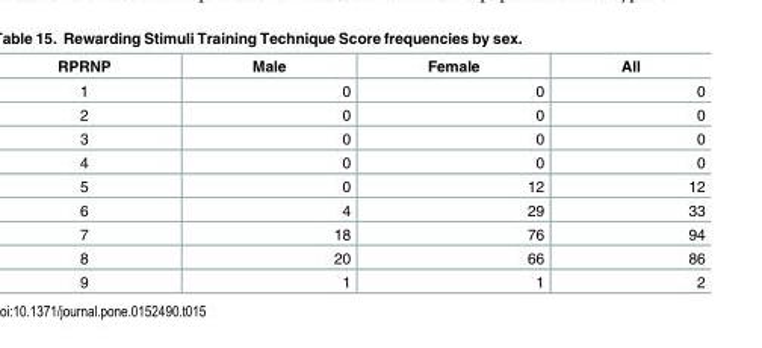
<table><thead><tr><td>RPRNP</td><td>Male</td><td>Female</td><td>All</td></tr></thead><tbody><tr><td>1</td><td>0</td><td>0</td><td>0</td></tr><tr><td>2</td><td>0</td><td>0</td><td>0</td></tr><tr><td>3</td><td>0</td><td>0</td><td>0</td></tr><tr><td>4</td><td>0</td><td>0</td><td>0</td></tr><tr><td>5</td><td>0</td><td>12</td><td>12</td></tr><tr><td>6</td><td>4</td><td>29</td><td>33</td></tr><tr><td>7</td><td>18</td><td>76</td><td>94</td></tr><tr><td>8</td><td>20</td><td>66</td><td>86</td></tr><tr><td>9</td><td>1</td><td>1</td><td>2</td></tr></tbody></table>